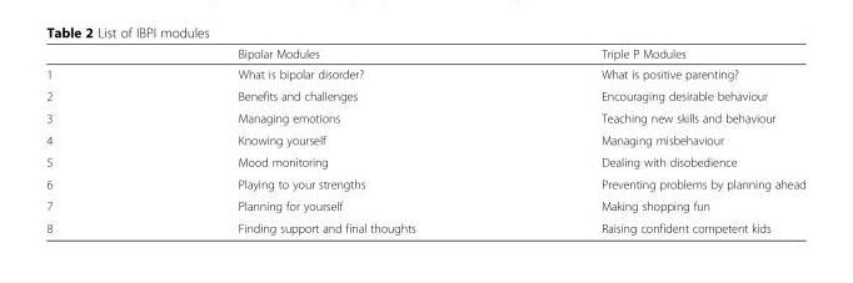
<table><thead><tr><td></td><td>Bipolar Modules</td><td>Triple P Modules</td></tr></thead><tbody><tr><td>1</td><td>What is bipolar disorder?</td><td>What is positive parenting?</td></tr><tr><td>2</td><td>Benefits and challenges</td><td>Encouraging desirable behaviour</td></tr><tr><td>3</td><td>Managing emotions</td><td>Teaching new skills and behaviour</td></tr><tr><td>4</td><td>Knowing yourself</td><td>Managing misbehaviour</td></tr><tr><td>5</td><td>Mood monitoring</td><td>Dealing with disobedience</td></tr><tr><td>6</td><td>Playing to your strengths</td><td>Preventing problems by planning ahead</td></tr><tr><td>7</td><td>Planning for yourself</td><td>Making shopping fun</td></tr><tr><td>8</td><td>Finding support and final thoughts</td><td>Raising confident competent kids</td></tr></tbody></table>